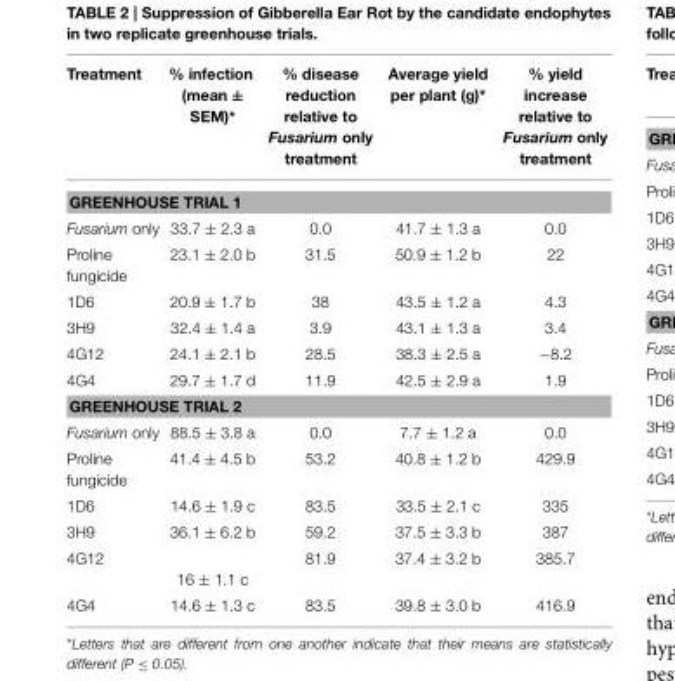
<table><thead><tr><td>Treatment</td><td>% infection (mean ± SEM)*</td><td>% disease reduction relative to Fusarium only treatment</td><td>Average yield per plant (g)*</td><td>% yield increase relative to Fusarium only treatment</td></tr></thead><tbody><tr><td colspan="5">GREENHOUSE TRIAL 1</td></tr><tr><td>Fusarium only</td><td>33.7 ± 2.3 a</td><td>0.0</td><td>41.7 ± 1.3 a</td><td>0.0</td></tr><tr><td>Proline fungicide</td><td>23.1 ± 2.0 b</td><td>31.5</td><td>50.9 ± 1.2 b</td><td>22</td></tr><tr><td>1D6</td><td>20.9 ± 1.7 b</td><td>38</td><td>43.5 ± 1.2 a</td><td>4.3</td></tr><tr><td>3H9</td><td>32.4 ± 1.4 a</td><td>3.9</td><td>43.1 ± 1.3 a</td><td>3.4</td></tr><tr><td>4G12</td><td>24.1 ± 2.1 b</td><td>28.5</td><td>38.3 ± 2.5 a</td><td>−8.2</td></tr><tr><td>4G4</td><td>29.7 ± 1.7 d</td><td>11.9</td><td>42.5 ± 2.9 a</td><td>1.9</td></tr><tr><td colspan="5">GREENHOUSE TRIAL 2</td></tr><tr><td>Fusarium only</td><td>88.5 ± 3.8 a</td><td>0.0</td><td>7.7 ± 1.2 a</td><td>0.0</td></tr><tr><td>Proline fungicide</td><td>41.4 ± 4.5 b</td><td>53.2</td><td>40.8 ± 1.2 b</td><td>429.9</td></tr><tr><td>1D6</td><td>14.6 ± 1.9 c</td><td>83.5</td><td>33.5 ± 2.1 c</td><td>335</td></tr><tr><td>3H9</td><td>36.1 ± 6.2 b</td><td>59.2</td><td>37.5 ± 3.3 b</td><td>387</td></tr><tr><td>4G12</td><td>16 ± 1.1 c</td><td>81.9</td><td>37.4 ± 3.2 b</td><td>385.7</td></tr><tr><td>4G4</td><td>14.6 ± 1.3 c</td><td>83.5</td><td>39.8 ± 3.0 b</td><td>416.9</td></tr></tbody></table>